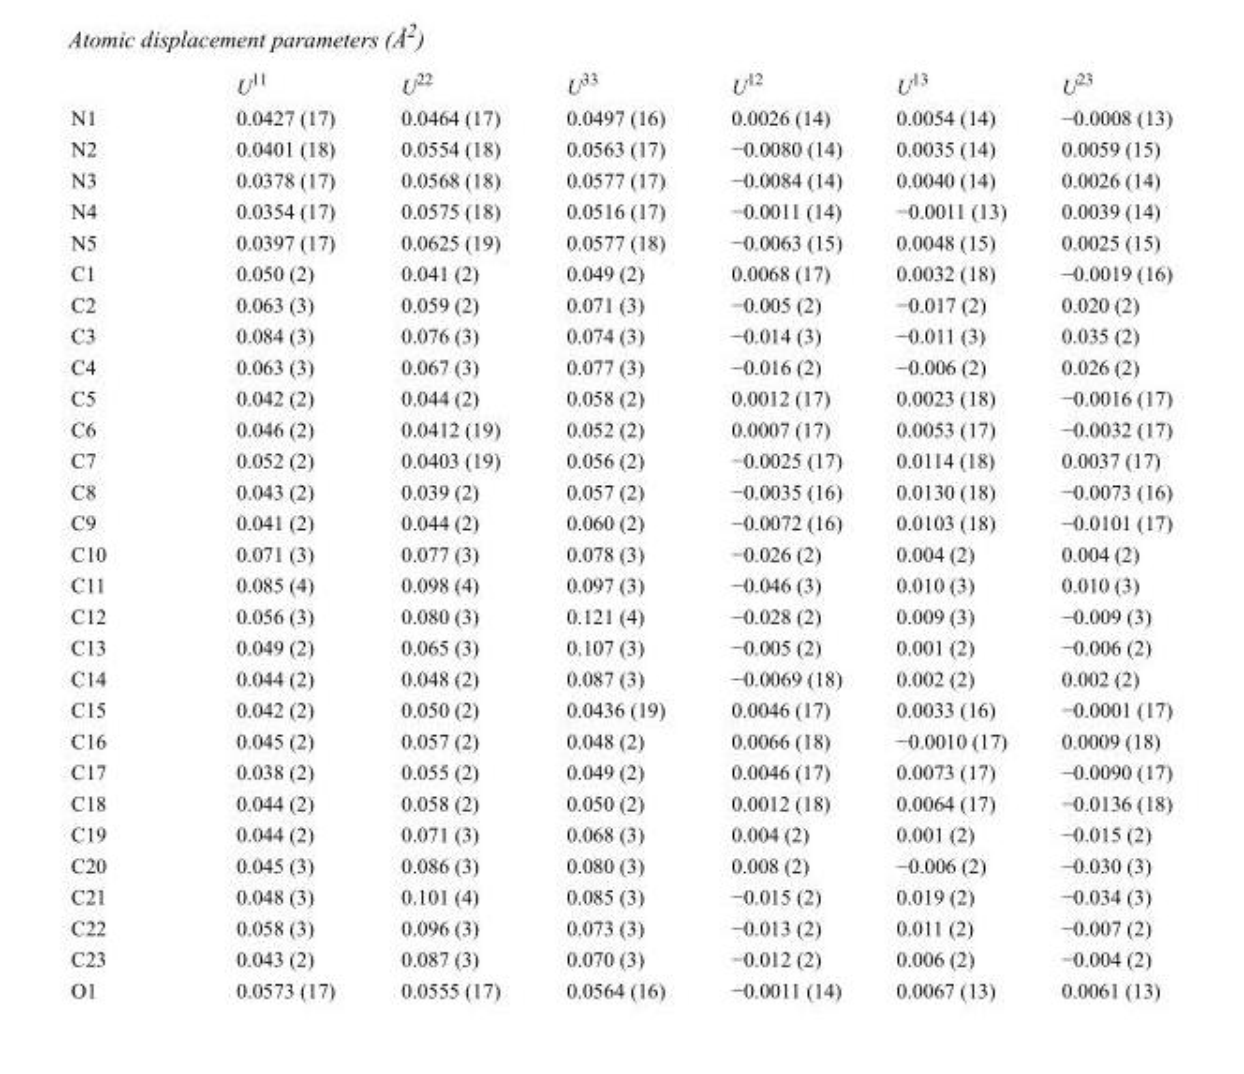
<table><thead><tr><td></td><td>U<sup>11</sup></td><td>U<sup>22</sup></td><td>U<sup>33</sup></td><td>U<sup>12</sup></td><td>U<sup>13</sup></td><td>U<sup>23</sup></td></tr></thead><tbody><tr><td>N1</td><td>0.0427 (17)</td><td>0.0464 (17)</td><td>0.0497 (16)</td><td>0.0026 (14)</td><td>0.0054 (14)</td><td>−0.0008 (13)</td></tr><tr><td>N2</td><td>0.0401 (18)</td><td>0.0554 (18)</td><td>0.0563 (17)</td><td>−0.0080 (14)</td><td>0.0035 (14)</td><td>0.0059 (15)</td></tr><tr><td>N3</td><td>0.0378 (17)</td><td>0.0568 (18)</td><td>0.0577 (17)</td><td>−0.0084 (14)</td><td>0.0040 (14)</td><td>0.0026 (14)</td></tr><tr><td>N4</td><td>0.0354 (17)</td><td>0.0575 (18)</td><td>0.0516 (17)</td><td>−0.0011 (14)</td><td>−0.0011 (13)</td><td>0.0039 (14)</td></tr><tr><td>N5</td><td>0.0397 (17)</td><td>0.0625 (19)</td><td>0.0577 (18)</td><td>−0.0063 (15)</td><td>0.0048 (15)</td><td>0.0025 (15)</td></tr><tr><td>C1</td><td>0.050 (2)</td><td>0.041 (2)</td><td>0.049 (2)</td><td>0.0068 (17)</td><td>0.0032 (18)</td><td>−0.0019 (16)</td></tr><tr><td>C2</td><td>0.063 (3)</td><td>0.059 (2)</td><td>0.071 (3)</td><td>−0.005 (2)</td><td>−0.017 (2)</td><td>0.020 (2)</td></tr><tr><td>C3</td><td>0.084 (3)</td><td>0.076 (3)</td><td>0.074 (3)</td><td>−0.014 (3)</td><td>−0.011 (3)</td><td>0.035 (2)</td></tr><tr><td>C4</td><td>0.063 (3)</td><td>0.067 (3)</td><td>0.077 (3)</td><td>−0.016 (2)</td><td>−0.006 (2)</td><td>0.026 (2)</td></tr><tr><td>C5</td><td>0.042 (2)</td><td>0.044 (2)</td><td>0.058 (2)</td><td>0.0012 (17)</td><td>0.0023 (18)</td><td>−0.0016 (17)</td></tr><tr><td>C6</td><td>0.046 (2)</td><td>0.0412 (19)</td><td>0.052 (2)</td><td>0.0007 (17)</td><td>0.0053 (17)</td><td>−0.0032 (17)</td></tr><tr><td>C7</td><td>0.052 (2)</td><td>0.0403 (19)</td><td>0.056 (2)</td><td>−0.0025 (17)</td><td>0.0114 (18)</td><td>0.0037 (17)</td></tr><tr><td>C8</td><td>0.043 (2)</td><td>0.039 (2)</td><td>0.057 (2)</td><td>−0.0035 (16)</td><td>0.0130 (18)</td><td>−0.0073 (16)</td></tr><tr><td>C9</td><td>0.041 (2)</td><td>0.044 (2)</td><td>0.060 (2)</td><td>−0.0072 (16)</td><td>0.0103 (18)</td><td>−0.0101 (17)</td></tr><tr><td>C10</td><td>0.071 (3)</td><td>0.077 (3)</td><td>0.078 (3)</td><td>−0.026 (2)</td><td>0.004 (2)</td><td>0.004 (2)</td></tr><tr><td>C11</td><td>0.085 (4)</td><td>0.098 (4)</td><td>0.097 (3)</td><td>−0.046 (3)</td><td>0.010 (3)</td><td>0.010 (3)</td></tr><tr><td>C12</td><td>0.056 (3)</td><td>0.080 (3)</td><td>0.121 (4)</td><td>−0.028 (2)</td><td>0.009 (3)</td><td>−0.009 (3)</td></tr><tr><td>C13</td><td>0.049 (2)</td><td>0.065 (3)</td><td>0.107 (3)</td><td>−0.005 (2)</td><td>0.001 (2)</td><td>−0.006 (2)</td></tr><tr><td>C14</td><td>0.044 (2)</td><td>0.048 (2)</td><td>0.087 (3)</td><td>−0.0069 (18)</td><td>0.002 (2)</td><td>0.002 (2)</td></tr><tr><td>C15</td><td>0.042 (2)</td><td>0.050 (2)</td><td>0.0436 (19)</td><td>0.0046 (17)</td><td>0.0033 (16)</td><td>−0.0001 (17)</td></tr><tr><td>C16</td><td>0.045 (2)</td><td>0.057 (2)</td><td>0.048 (2)</td><td>0.0066 (18)</td><td>−0.0010 (17)</td><td>0.0009 (18)</td></tr><tr><td>C17</td><td>0.038 (2)</td><td>0.055 (2)</td><td>0.049 (2)</td><td>0.0046 (17)</td><td>0.0073 (17)</td><td>−0.0090 (17)</td></tr><tr><td>C18</td><td>0.044 (2)</td><td>0.058 (2)</td><td>0.050 (2)</td><td>0.0012 (18)</td><td>0.0064 (17)</td><td>−0.0136 (18)</td></tr><tr><td>C19</td><td>0.044 (2)</td><td>0.071 (3)</td><td>0.068 (3)</td><td>0.004 (2)</td><td>0.001 (2)</td><td>−0.015 (2)</td></tr><tr><td>C20</td><td>0.045 (3)</td><td>0.086 (3)</td><td>0.080 (3)</td><td>0.008 (2)</td><td>−0.006 (2)</td><td>−0.030 (3)</td></tr><tr><td>C21</td><td>0.048 (3)</td><td>0.101 (4)</td><td>0.085 (3)</td><td>−0.015 (2)</td><td>0.019 (2)</td><td>−0.034 (3)</td></tr><tr><td>C22</td><td>0.058 (3)</td><td>0.096 (3)</td><td>0.073 (3)</td><td>−0.013 (2)</td><td>0.011 (2)</td><td>−0.007 (2)</td></tr><tr><td>C23</td><td>0.043 (2)</td><td>0.087 (3)</td><td>0.070 (3)</td><td>−0.012 (2)</td><td>0.006 (2)</td><td>−0.004 (2)</td></tr><tr><td>O1</td><td>0.0573 (17)</td><td>0.0555 (17)</td><td>0.0564 (16)</td><td>−0.0011 (14)</td><td>0.0067 (13)</td><td>0.0061 (13)</td></tr></tbody></table>